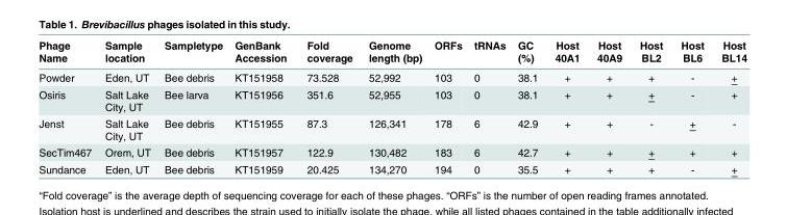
<table><thead><tr><td>Phage Name</td><td>Sample location</td><td>Sampletype</td><td>GenBank Accession</td><td>Fold coverage</td><td>Genome length (bp)</td><td>ORFs</td><td>tRNAs</td><td>GC (%)</td><td>Host 40A1</td><td>Host 40A9</td><td>Host BL2</td><td>Host BL6</td><td>Host BL14</td></tr></thead><tbody><tr><td>Powder</td><td>Eden, UT</td><td>Bee debris</td><td>KT151958</td><td>73.528</td><td>52,992</td><td>103</td><td>0</td><td>38.1</td><td>+</td><td>+</td><td>+</td><td>-</td><td>+</td></tr><tr><td>Osiris</td><td>Salt Lake City, UT</td><td>Bee larva</td><td>KT151956</td><td>351.6</td><td>52,955</td><td>103</td><td>0</td><td>38.1</td><td>+</td><td>+</td><td>+</td><td>-</td><td>+</td></tr><tr><td>Jenst</td><td>Salt Lake City, UT</td><td>Bee debris</td><td>KT151955</td><td>87.3</td><td>126,341</td><td>178</td><td>6</td><td>42.9</td><td>+</td><td>+</td><td>-</td><td>+</td><td>-</td></tr><tr><td>SecTim467</td><td>Orem, UT</td><td>Bee debris</td><td>KT151957</td><td>122.9</td><td>130,482</td><td>183</td><td>6</td><td>42.7</td><td>+</td><td>+</td><td>+</td><td>+</td><td>+</td></tr><tr><td>Sundance</td><td>Eden, UT</td><td>Bee debris</td><td>KT151959</td><td>20.425</td><td>134,270</td><td>194</td><td>0</td><td>35.5</td><td>+</td><td>+</td><td>+</td><td>-</td><td>+</td></tr></tbody></table>